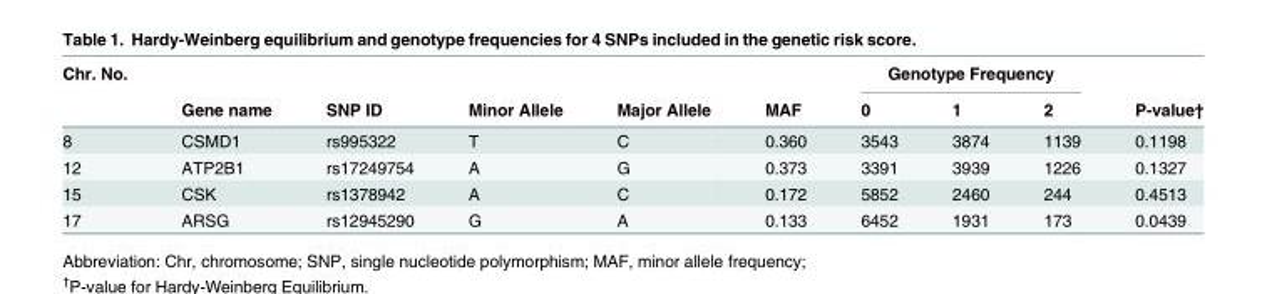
<table><thead><tr><td rowspan="2">Chr. No.</td><td rowspan="2">Gene name</td><td rowspan="2">SNP ID</td><td rowspan="2">Minor Allele</td><td rowspan="2">Major Allele</td><td rowspan="2">MAF</td><td colspan="3">Genotype Frequency</td><td rowspan="2">P-value†</td></tr><tr><td>0</td><td>1</td><td>2</td></tr></thead><tbody><tr><td>8</td><td>CSMD1</td><td>rs995322</td><td>T</td><td>C</td><td>0.360</td><td>3543</td><td>3874</td><td>1139</td><td>0.1198</td></tr><tr><td>12</td><td>ATP2B1</td><td>rs17249754</td><td>A</td><td>G</td><td>0.373</td><td>3391</td><td>3939</td><td>1226</td><td>0.1327</td></tr><tr><td>15</td><td>CSK</td><td>rs1378942</td><td>A</td><td>C</td><td>0.172</td><td>5852</td><td>2460</td><td>244</td><td>0.4513</td></tr><tr><td>17</td><td>ARSG</td><td>rs12945290</td><td>G</td><td>A</td><td>0.133</td><td>6452</td><td>1931</td><td>173</td><td>0.0439</td></tr></tbody></table>